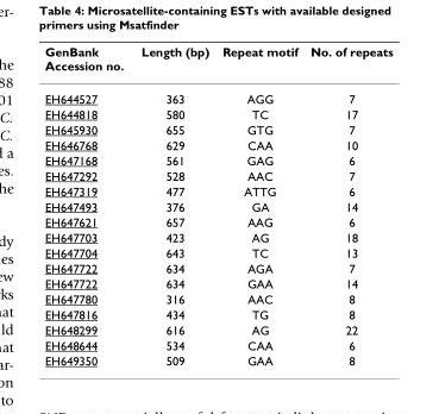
<table><thead><tr><td>GenBank Accession no.</td><td>Length (bp)</td><td>Repeat motif</td><td>No. of repeats</td></tr></thead><tbody><tr><td>EH644527</td><td>363</td><td>AGG</td><td>7</td></tr><tr><td>EH644818</td><td>580</td><td>TC</td><td>17</td></tr><tr><td>EH645930</td><td>655</td><td>GTG</td><td>7</td></tr><tr><td>EH646768</td><td>629</td><td>CAA</td><td>10</td></tr><tr><td>EH647168</td><td>561</td><td>GAG</td><td>6</td></tr><tr><td>EH647292</td><td>528</td><td>AAC</td><td>7</td></tr><tr><td>EH647319</td><td>477</td><td>ATTG</td><td>6</td></tr><tr><td>EH647493</td><td>376</td><td>GA</td><td>14</td></tr><tr><td>EH647621</td><td>657</td><td>AAG</td><td>6</td></tr><tr><td>EH647703</td><td>423</td><td>AG</td><td>18</td></tr><tr><td>EH647704</td><td>643</td><td>TC</td><td>13</td></tr><tr><td>EH647722</td><td>634</td><td>AGA</td><td>7</td></tr><tr><td>EH647722</td><td>634</td><td>GAA</td><td>14</td></tr><tr><td>EH647780</td><td>316</td><td>AAC</td><td>8</td></tr><tr><td>EH647816</td><td>434</td><td>TG</td><td>8</td></tr><tr><td>EH648299</td><td>616</td><td>AG</td><td>22</td></tr><tr><td>EH648644</td><td>534</td><td>CAA</td><td>6</td></tr><tr><td>EH649350</td><td>509</td><td>GAA</td><td>8</td></tr></tbody></table>